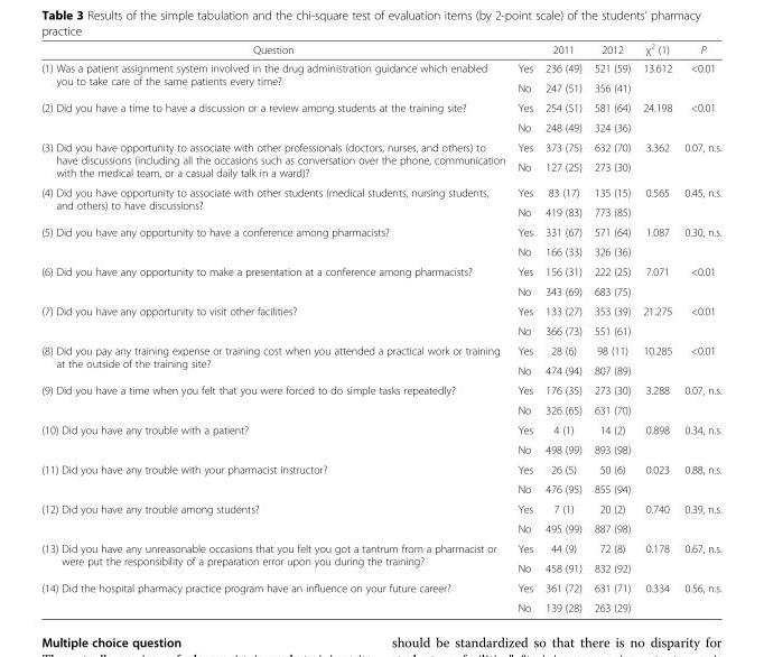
<table><thead><tr><td>Question</td><td></td><td>2011</td><td>2012</td><td>χ<sup>2</sup> (1)</td><td>P</td></tr></thead><tbody><tr><td rowspan="2">(1) Was a patient assignment system involved in the drug administration guidance which enabled you to take care of the same patients every time?</td><td>Yes</td><td>236 (49)</td><td>521 (59)</td><td rowspan="2">13.612</td><td rowspan="2">&lt;0.01</td></tr><tr><td>No</td><td>247 (51)</td><td>356 (41)</td></tr><tr><td rowspan="2">(2) Did you have a time to have a discussion or a review among students at the training site?</td><td>Yes</td><td>254 (51)</td><td>581 (64)</td><td rowspan="2">24.198</td><td rowspan="2">&lt;0.01</td></tr><tr><td>No</td><td>248 (49)</td><td>324 (36)</td></tr><tr><td rowspan="2">(3) Did you have opportunity to associate with other professionals (doctors, nurses, and others) to have discussions (including all the occasions such as conversation over the phone, communication with the medical team, or a casual daily talk in a ward)?</td><td>Yes</td><td>373 (75)</td><td>632 (70)</td><td rowspan="2">3.362</td><td rowspan="2">0.07, n.s.</td></tr><tr><td>No</td><td>127 (25)</td><td>273 (30)</td></tr><tr><td rowspan="2">(4) Did you have opportunity to associate with other students (medical students, nursing students, and others) to have discussions?</td><td>Yes</td><td>83 (17)</td><td>135 (15)</td><td rowspan="2">0.565</td><td rowspan="2">0.45, n.s.</td></tr><tr><td>No</td><td>419 (83)</td><td>773 (85)</td></tr><tr><td rowspan="2">(5) Did you have any opportunity to have a conference among pharmacists?</td><td>Yes</td><td>331 (67)</td><td>571 (64)</td><td rowspan="2">1.087</td><td rowspan="2">0.30, n.s.</td></tr><tr><td>No</td><td>166 (33)</td><td>326 (36)</td></tr><tr><td rowspan="2">(6) Did you have any opportunity to make a presentation at a conference among pharmacists?</td><td>Yes</td><td>156 (31)</td><td>222 (25)</td><td rowspan="2">7.071</td><td rowspan="2">&lt;0.01</td></tr><tr><td>No</td><td>343 (69)</td><td>683 (75)</td></tr><tr><td rowspan="2">(7) Did you have any opportunity to visit other facilities?</td><td>Yes</td><td>133 (27)</td><td>353 (39)</td><td rowspan="2">21.275</td><td rowspan="2">&lt;0.01</td></tr><tr><td>No</td><td>366 (73)</td><td>551 (61)</td></tr><tr><td rowspan="2">(8) Did you pay any training expense or training cost when you attended a practical work or training at the outside of the training site?</td><td>Yes</td><td>28 (6)</td><td>98 (11)</td><td rowspan="2">10.285</td><td rowspan="2">&lt;0.01</td></tr><tr><td>No</td><td>474 (94)</td><td>807 (89)</td></tr><tr><td rowspan="2">(9) Did you have a time when you felt that you were forced to do simple tasks repeatedly?</td><td>Yes</td><td>176 (35)</td><td>273 (30)</td><td rowspan="2">3.288</td><td rowspan="2">0.07, n.s.</td></tr><tr><td>No</td><td>326 (65)</td><td>631 (70)</td></tr><tr><td rowspan="2">(10) Did you have any trouble with a patient?</td><td>Yes</td><td>4 (1)</td><td>14 (2)</td><td rowspan="2">0.898</td><td rowspan="2">0.34, n.s.</td></tr><tr><td>No</td><td>498 (99)</td><td>893 (98)</td></tr><tr><td rowspan="2">(11) Did you have any trouble with your pharmacist instructor?</td><td>Yes</td><td>26 (5)</td><td>50 (6)</td><td rowspan="2">0.023</td><td rowspan="2">0.88, n.s.</td></tr><tr><td>No</td><td>476 (95)</td><td>855 (94)</td></tr><tr><td rowspan="2">(12) Did you have any trouble among students?</td><td>Yes</td><td>7 (1)</td><td>20 (2)</td><td rowspan="2">0.740</td><td rowspan="2">0.39, n.s.</td></tr><tr><td>No</td><td>495 (99)</td><td>887 (98)</td></tr><tr><td rowspan="2">(13) Did you have any unreasonable occasions that you felt you got a tantrum from a pharmacist or were put the responsibility of a preparation error upon you during the training?</td><td>Yes</td><td>44 (9)</td><td>72 (8)</td><td rowspan="2">0.178</td><td rowspan="2">0.67, n.s.</td></tr><tr><td>No</td><td>458 (91)</td><td>832 (92)</td></tr><tr><td rowspan="2">(14) Did the hospital pharmacy practice program have an influence on your future career?</td><td>Yes</td><td>361 (72)</td><td>631 (71)</td><td rowspan="2">0.334</td><td rowspan="2">0.56, n.s.</td></tr><tr><td>No</td><td>139 (28)</td><td>263 (29)</td></tr></tbody></table>